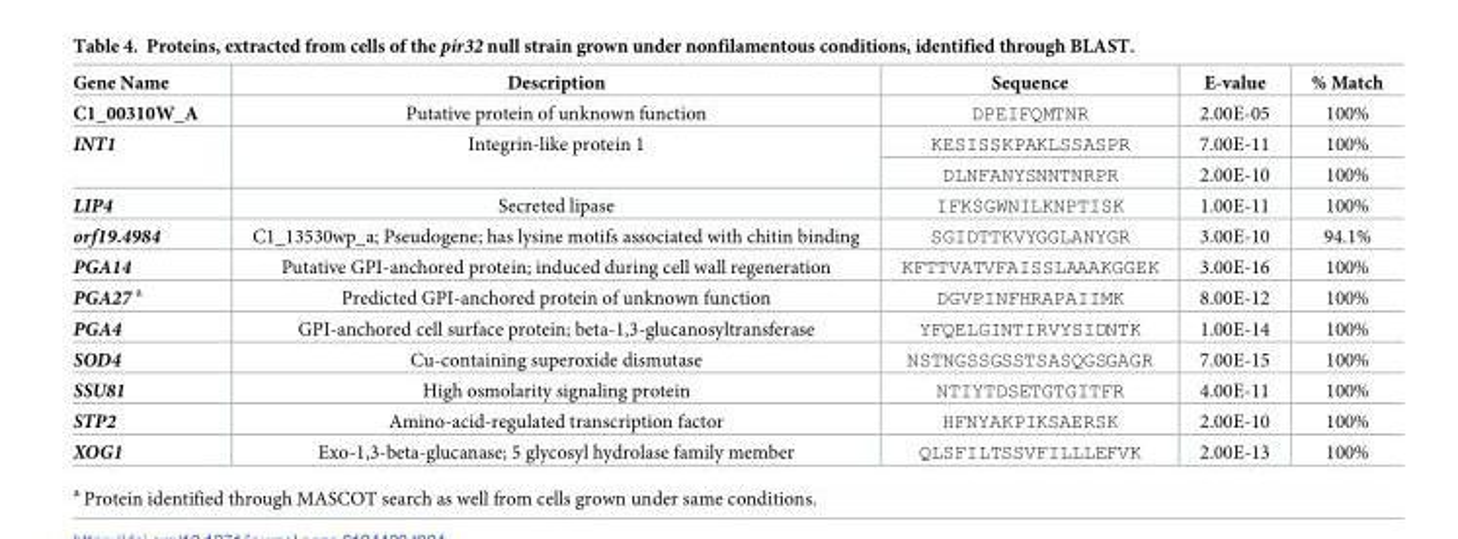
<table><thead><tr><td>Gene Name</td><td>Description</td><td>Sequence</td><td>E-value</td><td>% Match</td></tr></thead><tbody><tr><td>C1_00310W_A</td><td>Putative protein of unknown function</td><td>DPEIFQMTNR</td><td>2.00E-05</td><td>100%</td></tr><tr><td rowspan="2">INT1</td><td rowspan="2">Integrin-like protein 1</td><td>KESISSKPAKLSSASPR</td><td>7.00E-11</td><td>100%</td></tr><tr><td>DLNFANYSNNTNRPR</td><td>2.00E-10</td><td>100%</td></tr><tr><td>LIP4</td><td>Secreted lipase</td><td>IFKSGWNILKNPTISK</td><td>1.00E-11</td><td>100%</td></tr><tr><td>orf19.4984</td><td>C1_13530wp_a; Pseudogene; has lysine motifs associated with chitin binding</td><td>SGIDTTKVYGGLANYGR</td><td>3.00E-10</td><td>94.1%</td></tr><tr><td>PGA14</td><td>Putative GPI-anchored protein; induced during cell wall regeneration</td><td>KFTTVATVFAISSLAAAKGGEK</td><td>3.00E-16</td><td>100%</td></tr><tr><td>PGA27 <sup>a</sup></td><td>Predicted GPI-anchored protein of unknown function</td><td>DGVPINFHRAPAIIMK</td><td>8.00E-12</td><td>100%</td></tr><tr><td>PGA4</td><td>GPI-anchored cell surface protein; beta-1,3-glucanosyltransferase</td><td>YFQELGINTIRVYSIDNTK</td><td>1.00E-14</td><td>100%</td></tr><tr><td>SOD4</td><td>Cu-containing superoxide dismutase</td><td>NSTNGSSGSSTSASQGSGAGR</td><td>7.00E-15</td><td>100%</td></tr><tr><td>SSU81</td><td>High osmolarity signaling protein</td><td>NTIYTDSETGTGITFR</td><td>4.00E-11</td><td>100%</td></tr><tr><td>STP2</td><td>Amino-acid-regulated transcription factor</td><td>HFNYAKPIKSAERSK</td><td>2.00E-10</td><td>100%</td></tr><tr><td>XOG1</td><td>Exo-1,3-beta-glucanase; 5 glycosyl hydrolase family member</td><td>QLSFILTSSVFILLLEFVK</td><td>2.00E-13</td><td>100%</td></tr></tbody></table>